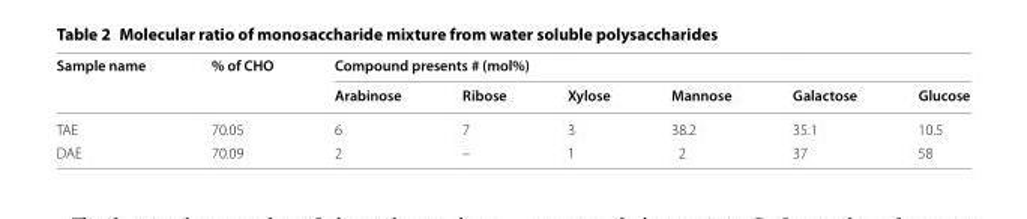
<table><thead><tr><td rowspan="2">Sample name</td><td rowspan="2">% of CHO</td><td colspan="6">Compound presents # (mol%)</td></tr><tr><td>Arabinose</td><td>Ribose</td><td>Xylose</td><td>Mannose</td><td>Galactose</td><td>Glucose</td></tr></thead><tbody><tr><td>TAE</td><td>70.05</td><td>6</td><td>7</td><td>3</td><td>38.2</td><td>35.1</td><td>10.5</td></tr><tr><td>DAE</td><td>70.09</td><td>2</td><td>–</td><td>1</td><td>2</td><td>37</td><td>58</td></tr></tbody></table>